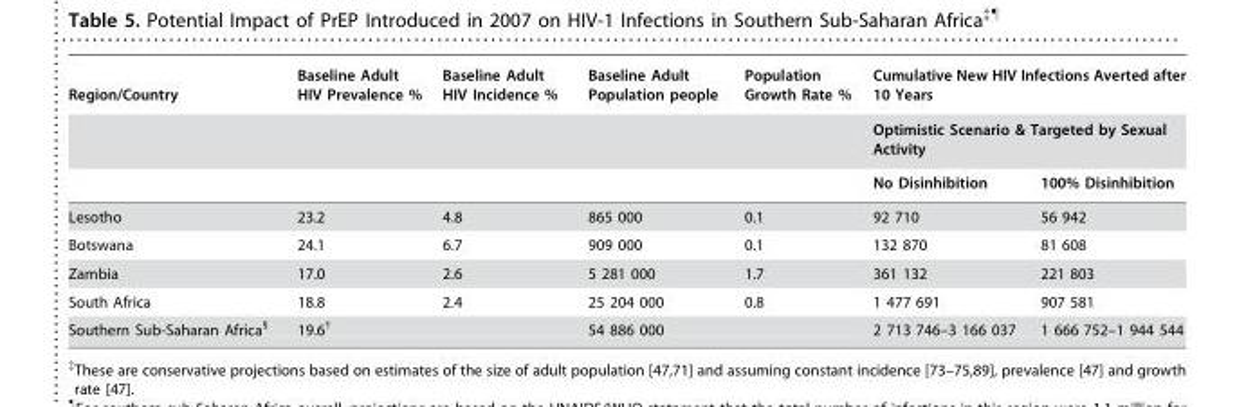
<table><thead><tr><td rowspan="3">Region/Country</td><td rowspan="3">Baseline Adult HIV Prevalence %</td><td rowspan="3">Baseline Adult HIV Incidence %</td><td rowspan="3">Baseline Adult Population people</td><td rowspan="3">Population Growth Rate %</td><td rowspan="2" colspan="2">Cumulative New HIV Infections Averted after 10 Years Optimistic Scenario &amp; Targeted by Sexual Activity</td></tr><tr></tr><tr><td>No Disinhibition</td><td>100% Disinhibition</td></tr></thead><tbody><tr><td>Lesotho</td><td>23.2</td><td>4.8</td><td>865 000</td><td>0.1</td><td>92 710</td><td>56 942</td></tr><tr><td>Botswana</td><td>24.1</td><td>6.7</td><td>909 000</td><td>0.1</td><td>132 870</td><td>81 608</td></tr><tr><td>Zambia</td><td>17.0</td><td>2.6</td><td>5 281 000</td><td>1.7</td><td>361 132</td><td>221 803</td></tr><tr><td>South Africa</td><td>18.8</td><td>2.4</td><td>25 204 000</td><td>0.8</td><td>1 477 691</td><td>907 581</td></tr><tr><td>Southern Sub-Saharan Africa§</td><td>19.6†</td><td></td><td>54 886 000</td><td></td><td>2 713 746–3 166 037</td><td>1 666 752–1 944 544</td></tr></tbody></table>